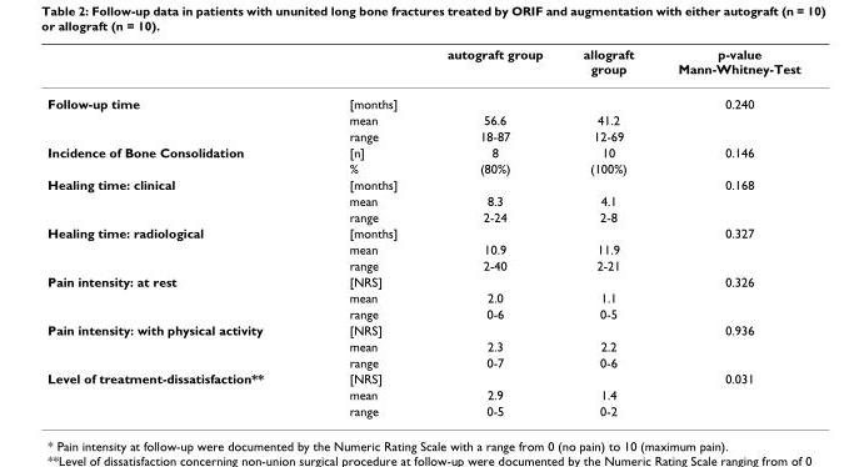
<table><thead><tr><td></td><td></td><td>autograft group</td><td>allograft group</td><td>p-value Mann-Whitney-Test</td></tr></thead><tbody><tr><td rowspan="3">Follow-up time</td><td>[months]</td><td></td><td></td><td>0.240</td></tr><tr><td>mean</td><td>56.6</td><td>41.2</td><td></td></tr><tr><td>range</td><td>18-87</td><td>12-69</td><td></td></tr><tr><td rowspan="2">Incidence of Bone Consolidation</td><td>[n]</td><td>8</td><td>10</td><td>0.146</td></tr><tr><td>%</td><td>(80%)</td><td>(100%)</td><td></td></tr><tr><td rowspan="3">Healing time: clinical</td><td>[months]</td><td></td><td></td><td>0.168</td></tr><tr><td>mean</td><td>8.3</td><td>4.1</td><td></td></tr><tr><td>range</td><td>2-24</td><td>2-8</td><td></td></tr><tr><td rowspan="3">Healing time: radiological</td><td>[months]</td><td></td><td></td><td>0.327</td></tr><tr><td>mean</td><td>10.9</td><td>11.9</td><td></td></tr><tr><td>range</td><td>2-40</td><td>2-21</td><td></td></tr><tr><td rowspan="3">Pain intensity: at rest</td><td>[NRS]</td><td></td><td></td><td>0.326</td></tr><tr><td>mean</td><td>2.0</td><td>1.1</td><td></td></tr><tr><td>range</td><td>0-6</td><td>0-5</td><td></td></tr><tr><td rowspan="3">Pain intensity: with physical activity</td><td>[NRS]</td><td></td><td></td><td>0.936</td></tr><tr><td>mean</td><td>2.3</td><td>2.2</td><td></td></tr><tr><td>range</td><td>0-7</td><td>0-6</td><td></td></tr><tr><td rowspan="3">Level of treatment-dissatisfaction**</td><td>[NRS]</td><td></td><td></td><td>0.031</td></tr><tr><td>mean</td><td>2.9</td><td>1.4</td><td></td></tr><tr><td>range</td><td>0-5</td><td>0-2</td><td></td></tr></tbody></table>